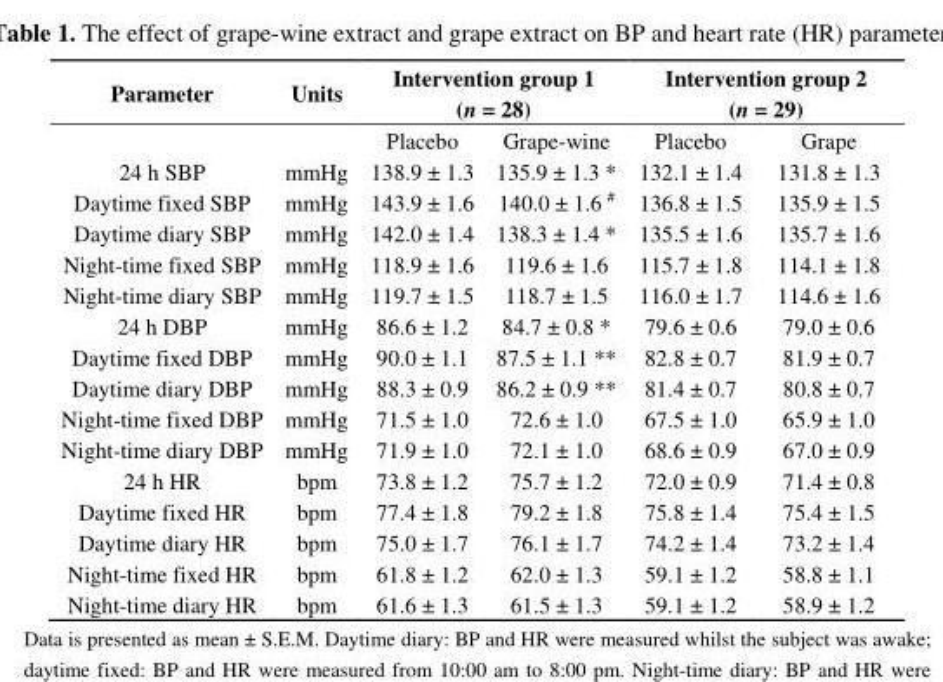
<table><thead><tr><td rowspan="2">Parameter</td><td rowspan="2">Units</td><td colspan="2">Intervention group 1 (n = 28)</td><td colspan="2">Intervention group 2 (n = 29)</td></tr><tr><td>Placebo</td><td>Grape-wine</td><td>Placebo</td><td>Grape</td></tr></thead><tbody><tr><td>24 h SBP</td><td>mmHg</td><td>138.9 ± 1.3</td><td>135.9 ± 1.3 *</td><td>132.1 ± 1.4</td><td>131.8 ± 1.3</td></tr><tr><td>Daytime fixed SBP</td><td>mmHg</td><td>143.9 ± 1.6</td><td>140.0 ± 1.6 <sup>#</sup></td><td>136.8 ± 1.5</td><td>135.9 ± 1.5</td></tr><tr><td>Daytime diary SBP</td><td>mmHg</td><td>142.0 ± 1.4</td><td>138.3 ± 1.4 *</td><td>135.5 ± 1.6</td><td>135.7 ± 1.6</td></tr><tr><td>Night-time fixed SBP</td><td>mmHg</td><td>118.9 ± 1.6</td><td>119.6 ± 1.6</td><td>115.7 ± 1.8</td><td>114.1 ± 1.8</td></tr><tr><td>Night-time diary SBP</td><td>mmHg</td><td>119.7 ± 1.5</td><td>118.7 ± 1.5</td><td>116.0 ± 1.7</td><td>114.6 ± 1.6</td></tr><tr><td>24 h DBP</td><td>mmHg</td><td>86.6 ± 1.2</td><td>84.7 ± 0.8 *</td><td>79.6 ± 0.6</td><td>79.0 ± 0.6</td></tr><tr><td>Daytime fixed DBP</td><td>mmHg</td><td>90.0 ± 1.1</td><td>87.5 ± 1.1 **</td><td>82.8 ± 0.7</td><td>81.9 ± 0.7</td></tr><tr><td>Daytime diary DBP</td><td>mmHg</td><td>88.3 ± 0.9</td><td>86.2 ± 0.9 **</td><td>81.4 ± 0.7</td><td>80.8 ± 0.7</td></tr><tr><td>Night-time fixed DBP</td><td>mmHg</td><td>71.5 ± 1.0</td><td>72.6 ± 1.0</td><td>67.5 ± 1.0</td><td>65.9 ± 1.0</td></tr><tr><td>Night-time diary DBP</td><td>mmHg</td><td>71.9 ± 1.0</td><td>72.1 ± 1.0</td><td>68.6 ± 0.9</td><td>67.0 ± 0.9</td></tr><tr><td>24 h HR</td><td>bpm</td><td>73.8 ± 1.2</td><td>75.7 ± 1.2</td><td>72.0 ± 0.9</td><td>71.4 ± 0.8</td></tr><tr><td>Daytime fixed HR</td><td>bpm</td><td>77.4 ± 1.8</td><td>79.2 ± 1.8</td><td>75.8 ± 1.4</td><td>75.4 ± 1.5</td></tr><tr><td>Daytime diary HR</td><td>bpm</td><td>75.0 ± 1.7</td><td>76.1 ± 1.7</td><td>74.2 ± 1.4</td><td>73.2 ± 1.4</td></tr><tr><td>Night-time fixed HR</td><td>bpm</td><td>61.8 ± 1.2</td><td>62.0 ± 1.3</td><td>59.1 ± 1.2</td><td>58.8 ± 1.1</td></tr><tr><td>Night-time diary HR</td><td>bpm</td><td>61.6 ± 1.3</td><td>61.5 ± 1.3</td><td>59.1 ± 1.2</td><td>58.9 ± 1.2</td></tr></tbody></table>